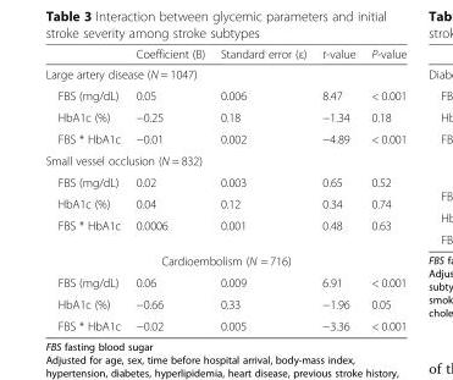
<table><thead><tr><td></td><td>Coefficient (B)</td><td>Standard error (ε)</td><td>t-value</td><td>P-value</td></tr></thead><tbody><tr><td colspan="5">Large artery disease (N = 1047)</td></tr><tr><td>FBS (mg/dL)</td><td>0.05</td><td>0.006</td><td>8.47</td><td>&lt; 0.001</td></tr><tr><td>HbA1c (%)</td><td>−0.25</td><td>0.18</td><td>−1.34</td><td>0.18</td></tr><tr><td>FBS * HbA1c</td><td>−0.01</td><td>0.002</td><td>−4.89</td><td>&lt; 0.001</td></tr><tr><td colspan="5">Small vessel occlusion (N = 832)</td></tr><tr><td>FBS (mg/dL)</td><td>0.02</td><td>0.003</td><td>0.65</td><td>0.52</td></tr><tr><td>HbA1c (%)</td><td>0.04</td><td>0.12</td><td>0.34</td><td>0.74</td></tr><tr><td>FBS * HbA1c</td><td>0.0006</td><td>0.001</td><td>0.48</td><td>0.63</td></tr><tr><td colspan="5">Cardioembolism (N = 716)</td></tr><tr><td>FBS (mg/dL)</td><td>0.06</td><td>0.009</td><td>6.91</td><td>&lt; 0.001</td></tr><tr><td>HbA1c (%)</td><td>−0.66</td><td>0.33</td><td>−1.96</td><td>0.05</td></tr><tr><td>FBS * HbA1c</td><td>−0.02</td><td>0.005</td><td>−3.36</td><td>&lt; 0.001</td></tr></tbody></table>